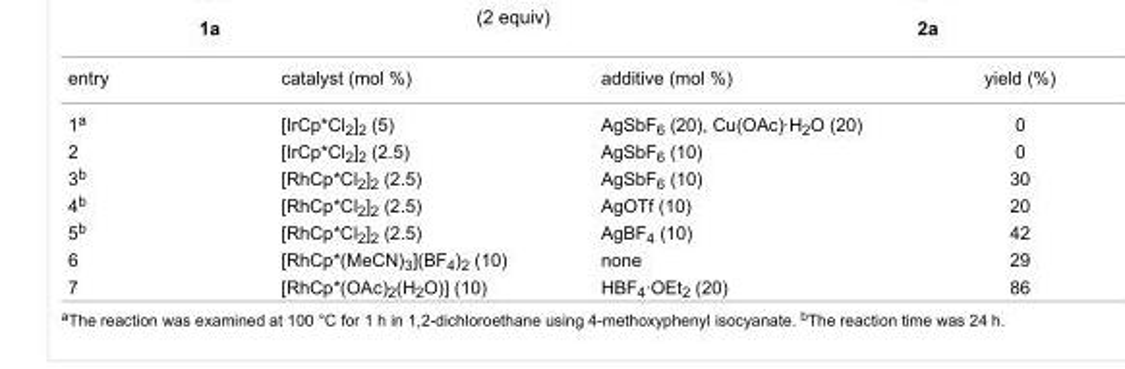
<table><tbody><tr><td>entry</td><td>catalyst (mol %)</td><td>additive (mol %)</td><td>yield (%)</td></tr><tr><td>1<sup>a</sup></td><td>[IrCp*Cl<sub>2</sub>]<sub>2</sub> (5)</td><td>AgSbF<sub>6</sub> (20), Cu(OAc)·H<sub>2</sub>O (20)</td><td>0</td></tr><tr><td>2</td><td>[IrCp*Cl<sub>2</sub>]<sub>2</sub> (2.5)</td><td>AgSbF<sub>6</sub> (10)</td><td>0</td></tr><tr><td>3<sup>b</sup></td><td>[RhCp*Cl<sub>2</sub>]<sub>2</sub> (2.5)</td><td>AgSbF<sub>6</sub> (10)</td><td>30</td></tr><tr><td>4<sup>b</sup></td><td>[RhCp*Cl<sub>2</sub>]<sub>2</sub> (2.5)</td><td>AgOTf (10)</td><td>20</td></tr><tr><td>5<sup>b</sup></td><td>[RhCp*Cl<sub>2</sub>]<sub>2</sub> (2.5)</td><td>AgBF<sub>4</sub> (10)</td><td>42</td></tr><tr><td>6</td><td>[RhCp*(MeCN)<sub>3</sub>](BF<sub>4</sub>)<sub>2</sub> (10)</td><td>none</td><td>29</td></tr><tr><td>7</td><td>[RhCp*(OAc)<sub>2</sub>(H<sub>2</sub>O)] (10)</td><td>HBF<sub>4</sub>·OEt<sub>2</sub> (20)</td><td>86</td></tr></tbody></table>